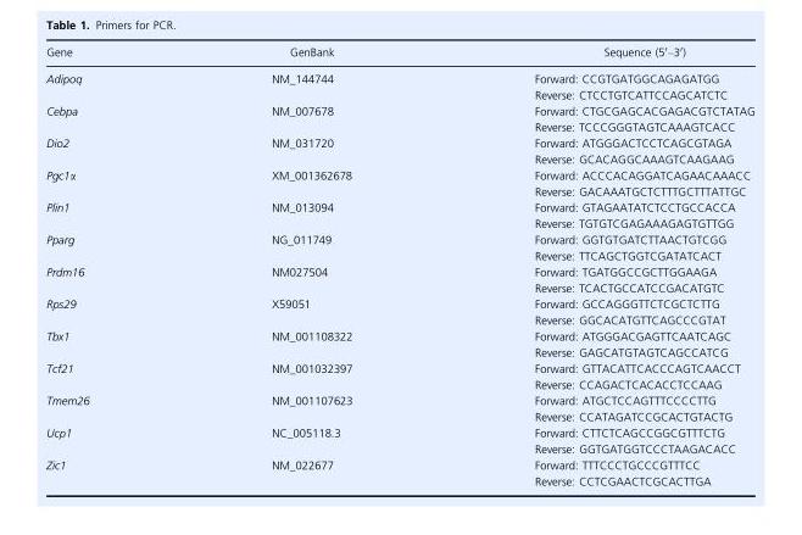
<table><thead><tr><td>Gene</td><td>GenBank</td><td>Sequence (5′–3′)</td></tr></thead><tbody><tr><td rowspan="2">Adipoq</td><td rowspan="2">NM_144744</td><td>Forward: CCGTGATGGCAGAGATGG</td></tr><tr><td>Reverse: CTCCTGTCATTCCAGCATCTC</td></tr><tr><td rowspan="2">Cebpa</td><td rowspan="2">NM_007678</td><td>Forward: CTGCGAGCACGAGACGTCTATAG</td></tr><tr><td>Reverse: TCCCGGGTAGTCAAAGTCACC</td></tr><tr><td rowspan="2">Dio2</td><td rowspan="2">NM_031720</td><td>Forward: ATGGGACTCCTCAGCGTAGA</td></tr><tr><td>Reverse: GCACAGGCAAAGTCAAGAAG</td></tr><tr><td rowspan="2">Pgc1α</td><td rowspan="2">XM_001362678</td><td>Forward: ACCCACAGGATCAGAACAAACC</td></tr><tr><td>Reverse: GACAAATGCTCTTTGCTTTATTGC</td></tr><tr><td rowspan="2">Plin1</td><td rowspan="2">NM_013094</td><td>Forward: GTAGAATATCTCCTGCCACCA</td></tr><tr><td>Reverse: TGTGTCGAGAAAGAGTGTTGG</td></tr><tr><td rowspan="2">Pparg</td><td rowspan="2">NG_011749</td><td>Forward: GGTGTGATCTTAACTGTCGG</td></tr><tr><td>Reverse: TTCAGCTGGTCGATATCACT</td></tr><tr><td rowspan="2">Prdm16</td><td rowspan="2">NM027504</td><td>Forward: TGATGGCCGCTTGGAAGA</td></tr><tr><td>Reverse: TCACTGCCATCCGACATGTC</td></tr><tr><td rowspan="2">Rps29</td><td rowspan="2">X59051</td><td>Forward: GCCAGGGTTCTCGCTCTTG</td></tr><tr><td>Reverse: GGCACATGTTCAGCCCGTAT</td></tr><tr><td rowspan="2">Tbx1</td><td rowspan="2">NM_001108322</td><td>Forward: ATGGGACGAGTTCAATCAGC</td></tr><tr><td>Reverse: GAGCATGTAGTCAGCCATCG</td></tr><tr><td rowspan="2">Tcf21</td><td rowspan="2">NM_001032397</td><td>Forward: GTTACATTCACCCAGTCAACCT</td></tr><tr><td>Reverse: CCAGACTCACACCTCCAAG</td></tr><tr><td rowspan="2">Tmem26</td><td rowspan="2">NM_001107623</td><td>Forward: ATGCTCCAGTTTCCCCTTG</td></tr><tr><td>Reverse: CCATAGATCCGCACTGTACTG</td></tr><tr><td rowspan="2">Ucp1</td><td rowspan="2">NC_005118.3</td><td>Forward: CTTCTCAGCCGGCGTTTCTG</td></tr><tr><td>Reverse: GGTGATGGTCCCTAAGACACC</td></tr><tr><td rowspan="2">Zic1</td><td rowspan="2">NM_022677</td><td>Forward: TTTCCCTGCCCGTTTCC</td></tr><tr><td>Reverse: CCTCGAACTCGCACTTGA</td></tr></tbody></table>